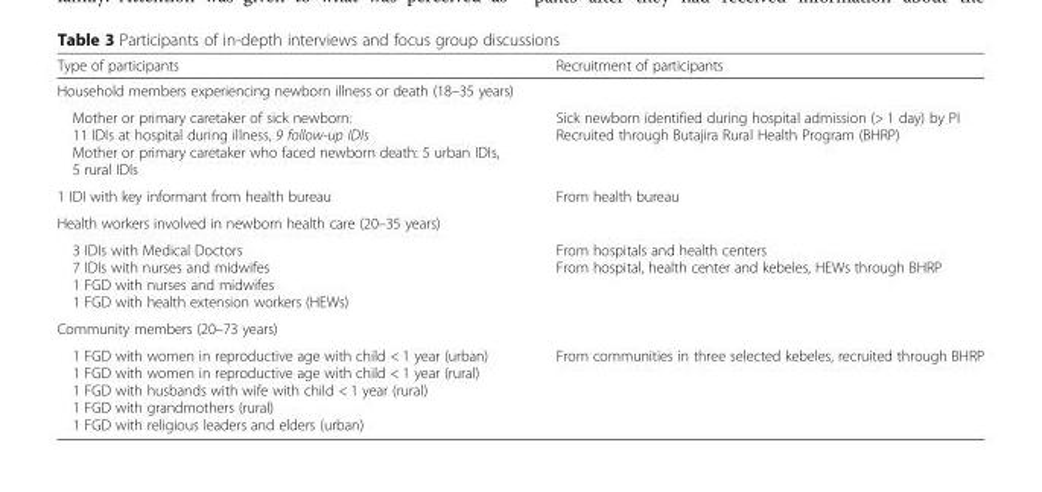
<table><thead><tr><td>Type of participants</td><td>Recruitment of participants</td></tr></thead><tbody><tr><td colspan="2">Household members experiencing newborn illness or death (18–35 years)</td></tr><tr><td>Mother or primary caretaker of sick newborn: 11 IDIs at hospital during illness, 9 follow-up IDIs Mother or primary caretaker who faced newborn death: 5 urban IDIs, 5 rural IDIs</td><td>Sick newborn identified during hospital admission (&gt; 1 day) by PI Recruited through Butajira Rural Health Program (BHRP)</td></tr><tr><td>1 IDI with key informant from health bureau</td><td>From health bureau</td></tr><tr><td colspan="2">Health workers involved in newborn health care (20–35 years)</td></tr><tr><td>3 IDIs with Medical Doctors 7 IDIs with nurses and midwifes 1 FGD with nurses and midwifes 1 FGD with health extension workers (HEWs)</td><td>From hospitals and health centers From hospital, health center and kebeles, HEWs through BHRP</td></tr><tr><td colspan="2">Community members (20–73 years)</td></tr><tr><td>1 FGD with women in reproductive age with child &lt; 1 year (urban) 1 FGD with women in reproductive age with child &lt; 1 year (rural) 1 FGD with husbands with wife with child &lt; 1 year (rural) 1 FGD with grandmothers (rural) 1 FGD with religious leaders and elders (urban)</td><td>From communities in three selected kebeles, recruited through BHRP</td></tr></tbody></table>